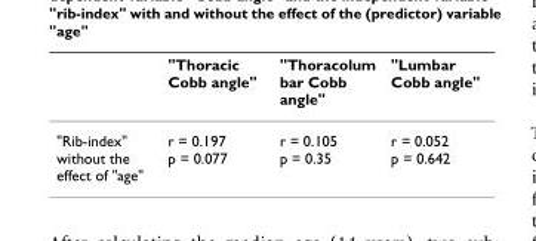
<table><thead><tr><td></td><td>&quot;Thoracic Cobb angle&quot;</td><td>&quot;Thoracolum bar Cobb angle&quot;</td><td>&quot;Lumbar Cobb angle&quot;</td></tr></thead><tbody><tr><td>&quot;Rib-index&quot; without the effect of &quot;age&quot;</td><td>r = 0.197 p = 0.077</td><td>r = 0.105 p = 0.35</td><td>r = 0.052 p = 0.642</td></tr></tbody></table>